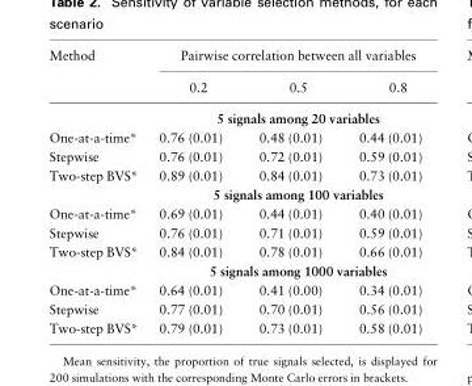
<table><thead><tr><td rowspan="2">Method</td><td colspan="3">Pairwise correlation between all variables</td></tr><tr><td>0.2</td><td>0.5</td><td>0.8</td></tr></thead><tbody><tr><td></td><td colspan="3">5 signals among 20 variables</td></tr><tr><td>One-at-a-time*</td><td>0.76 (0.01)</td><td>0.48 (0.01)</td><td>0.44 (0.01)</td></tr><tr><td>Stepwise</td><td>0.76 (0.01)</td><td>0.72 (0.01)</td><td>0.59 (0.01)</td></tr><tr><td rowspan="2">Two-step BVS*</td><td>0.89 (0.01)</td><td>0.84 (0.01)</td><td>0.73 (0.01)</td></tr><tr><td colspan="3">5 signals among 100 variables</td></tr><tr><td>One-at-a-time*</td><td>0.69 (0.01)</td><td>0.44 (0.01)</td><td>0.40 (0.01)</td></tr><tr><td>Stepwise</td><td>0.76 (0.01)</td><td>0.71 (0.01)</td><td>0.59 (0.01)</td></tr><tr><td rowspan="2">Two-step BVS*</td><td>0.84 (0.01)</td><td>0.78 (0.01)</td><td>0.66 (0.01)</td></tr><tr><td colspan="3">5 signals among 1000 variables</td></tr><tr><td>One-at-a-time*</td><td>0.64 (0.01)</td><td>0.41 (0.00)</td><td>0.34 (0.01)</td></tr><tr><td>Stepwise</td><td>0.77 (0.01)</td><td>0.70 (0.01)</td><td>0.56 (0.01)</td></tr><tr><td>Two-step BVS*</td><td>0.79 (0.01)</td><td>0.73 (0.01)</td><td>0.58 (0.01)</td></tr></tbody></table>